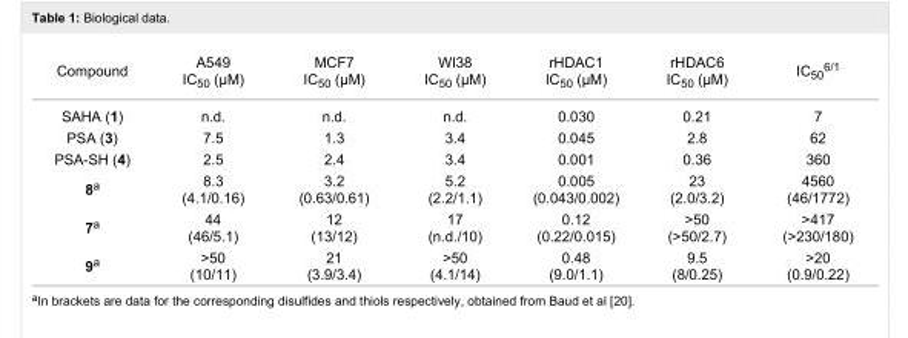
<table><tbody><tr><td>Compound</td><td>A549 IC<sub>50</sub> (μM)</td><td>MCF7 IC<sub>50</sub> (μM)</td><td>WI38 IC<sub>50</sub> (μM)</td><td>rHDAC1 IC<sub>50</sub> (μM)</td><td>rHDAC6 IC<sub>50</sub> (μM)</td><td>IC<sub>50</sub><sup>6/1</sup></td></tr><tr><td>SAHA (1)</td><td>n.d.</td><td>n.d.</td><td>n.d.</td><td>0.030</td><td>0.21</td><td>7</td></tr><tr><td>PSA (3)</td><td>7.5</td><td>1.3</td><td>3.4</td><td>0.045</td><td>2.8</td><td>62</td></tr><tr><td>PSA-SH (4)</td><td>2.5</td><td>2.4</td><td>3.4</td><td>0.001</td><td>0.36</td><td>360</td></tr><tr><td>8<sup>a</sup></td><td>8.3 (4.1/0.16)</td><td>3.2 (0.63/0.61)</td><td>5.2 (2.2/1.1)</td><td>0.005 (0.043/0.002)</td><td>23 (2.0/3.2)</td><td>4560 (46/1772)</td></tr><tr><td>7<sup>a</sup></td><td>44 (46/5.1)</td><td>12 (13/12)</td><td>17 (n.d./10)</td><td>0.12 (0.22/0.015)</td><td>&gt;50 (&gt;50/2.7)</td><td>&gt;417 (&gt;230/180)</td></tr><tr><td>9<sup>a</sup></td><td>&gt;50 (10/11)</td><td>21 (3.9/3.4)</td><td>&gt;50 (4.1/14)</td><td>0.48 (9.0/1.1)</td><td>9.5 (8/0.25)</td><td>&gt;20 (0.9/0.22)</td></tr></tbody></table>